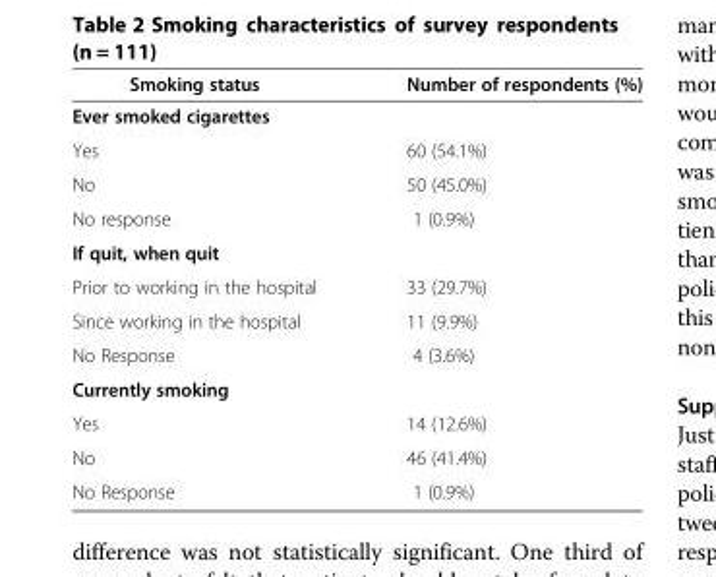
<table><thead><tr><td>Smoking status</td><td>Number of respondents (%)</td></tr></thead><tbody><tr><td colspan="2">Ever smoked cigarettes</td></tr><tr><td>Yes</td><td>60 (54.1%)</td></tr><tr><td>No</td><td>50 (45.0%)</td></tr><tr><td>No response</td><td>1 (0.9%)</td></tr><tr><td colspan="2">If quit, when quit</td></tr><tr><td>Prior to working in the hospital</td><td>33 (29.7%)</td></tr><tr><td>Since working in the hospital</td><td>11 (9.9%)</td></tr><tr><td>No Response</td><td>4 (3.6%)</td></tr><tr><td colspan="2">Currently smoking</td></tr><tr><td>Yes</td><td>14 (12.6%)</td></tr><tr><td>No</td><td>46 (41.4%)</td></tr><tr><td>No Response</td><td>1 (0.9%)</td></tr></tbody></table>